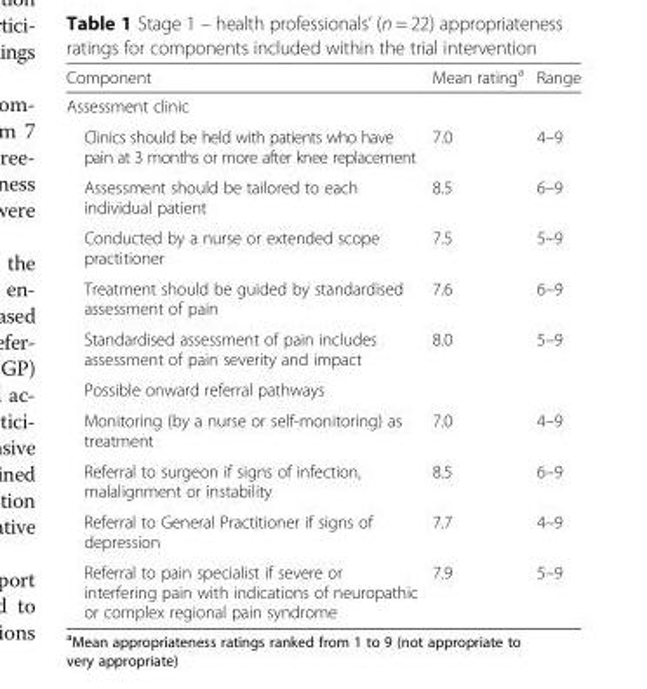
<table><thead><tr><td>Component</td><td>Mean rating<sup>a</sup></td><td>Range</td></tr></thead><tbody><tr><td colspan="3">Assessment clinic</td></tr><tr><td>Clinics should be held with patients who have pain at 3 months or more after knee replacement</td><td>7.0</td><td>4–9</td></tr><tr><td>Assessment should be tailored to each individual patient</td><td>8.5</td><td>6–9</td></tr><tr><td>Conducted by a nurse or extended scope practitioner</td><td>7.5</td><td>5–9</td></tr><tr><td>Treatment should be guided by standardised assessment of pain</td><td>7.6</td><td>6–9</td></tr><tr><td>Standardised assessment of pain includes assessment of pain severity and impact</td><td>8.0</td><td>5–9</td></tr><tr><td colspan="3">Possible onward referral pathways</td></tr><tr><td>Monitoring (by a nurse or self-monitoring) as treatment</td><td>7.0</td><td>4–9</td></tr><tr><td>Referral to surgeon if signs of infection, malalignment or instability</td><td>8.5</td><td>6–9</td></tr><tr><td>Referral to General Practitioner if signs of depression</td><td>7.7</td><td>4–9</td></tr><tr><td>Referral to pain specialist if severe or interfering pain with indications of neuropathic or complex regional pain syndrome</td><td>7.9</td><td>5–9</td></tr></tbody></table>